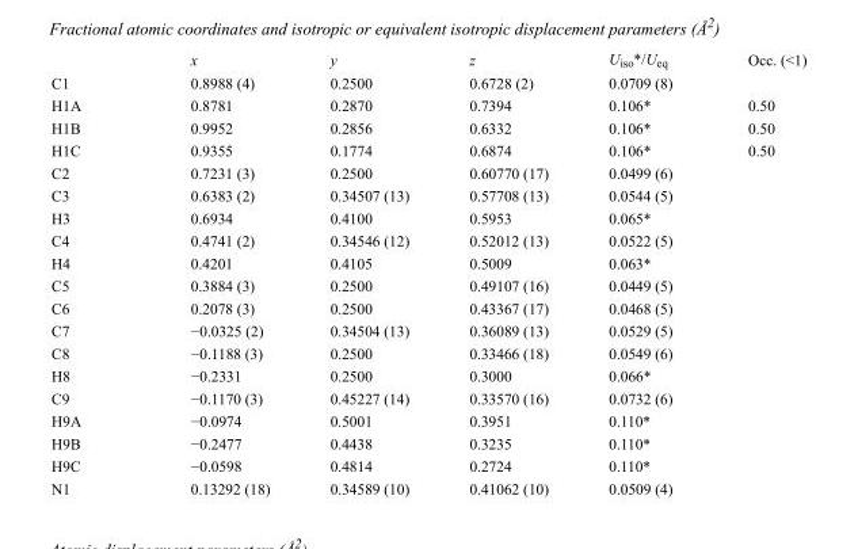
<table><thead><tr><td></td><td>x</td><td>y</td><td>z</td><td>U<sub>iso</sub>*/U<sub>eq</sub></td><td>Occ. (&lt;1)</td></tr></thead><tbody><tr><td>C1</td><td>0.8988 (4)</td><td>0.2500</td><td>0.6728 (2)</td><td>0.0709 (8)</td><td></td></tr><tr><td>H1A</td><td>0.8781</td><td>0.2870</td><td>0.7394</td><td>0.106*</td><td>0.50</td></tr><tr><td>H1B</td><td>0.9952</td><td>0.2856</td><td>0.6332</td><td>0.106*</td><td>0.50</td></tr><tr><td>H1C</td><td>0.9355</td><td>0.1774</td><td>0.6874</td><td>0.106*</td><td>0.50</td></tr><tr><td>C2</td><td>0.7231 (3)</td><td>0.2500</td><td>0.60770 (17)</td><td>0.0499 (6)</td><td></td></tr><tr><td>C3</td><td>0.6383 (2)</td><td>0.34507 (13)</td><td>0.57708 (13)</td><td>0.0544 (5)</td><td></td></tr><tr><td>H3</td><td>0.6934</td><td>0.4100</td><td>0.5953</td><td>0.065*</td><td></td></tr><tr><td>C4</td><td>0.4741 (2)</td><td>0.34546 (12)</td><td>0.52012 (13)</td><td>0.0522 (5)</td><td></td></tr><tr><td>H4</td><td>0.4201</td><td>0.4105</td><td>0.5009</td><td>0.063*</td><td></td></tr><tr><td>C5</td><td>0.3884 (3)</td><td>0.2500</td><td>0.49107 (16)</td><td>0.0449 (5)</td><td></td></tr><tr><td>C6</td><td>0.2078 (3)</td><td>0.2500</td><td>0.43367 (17)</td><td>0.0468 (5)</td><td></td></tr><tr><td>C7</td><td>−0.0325 (2)</td><td>0.34504 (13)</td><td>0.36089 (13)</td><td>0.0529 (5)</td><td></td></tr><tr><td>C8</td><td>−0.1188 (3)</td><td>0.2500</td><td>0.33466 (18)</td><td>0.0549 (6)</td><td></td></tr><tr><td>H8</td><td>−0.2331</td><td>0.2500</td><td>0.3000</td><td>0.066*</td><td></td></tr><tr><td>C9</td><td>−0.1170 (3)</td><td>0.45227 (14)</td><td>0.33570 (16)</td><td>0.0732 (6)</td><td></td></tr><tr><td>H9A</td><td>−0.0974</td><td>0.5001</td><td>0.3951</td><td>0.110*</td><td></td></tr><tr><td>H9B</td><td>−0.2477</td><td>0.4438</td><td>0.3235</td><td>0.110*</td><td></td></tr><tr><td>H9C</td><td>−0.0598</td><td>0.4814</td><td>0.2724</td><td>0.110*</td><td></td></tr><tr><td>N1</td><td>0.13292 (18)</td><td>0.34589 (10)</td><td>0.41062 (10)</td><td>0.0509 (4)</td><td></td></tr></tbody></table>